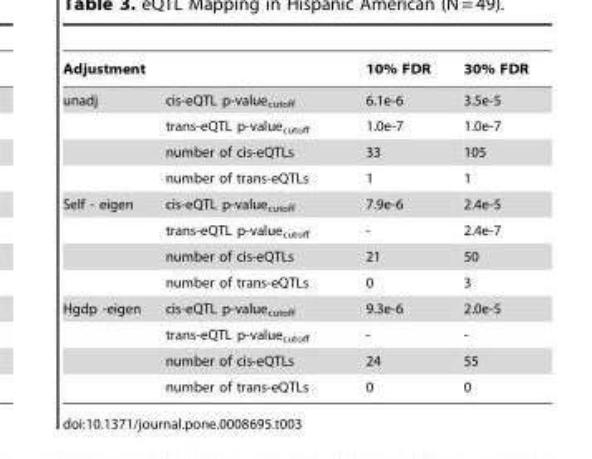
<table><thead><tr><td>Adjustment</td><td></td><td>10% FDR</td><td>30% FDR</td></tr></thead><tbody><tr><td rowspan="4">unadj</td><td>cis-eQTL p-value<sub>cutoff</sub></td><td>6.1e-6</td><td>3.5e-5</td></tr><tr><td>trans-eQTL p-value<sub>cutoff</sub></td><td>1.0e-7</td><td>1.0e-7</td></tr><tr><td>number of cis-eQTLs</td><td>33</td><td>105</td></tr><tr><td>number of trans-eQTLs</td><td>1</td><td>1</td></tr><tr><td rowspan="4">Self - eigen</td><td>cis-eQTL p-value<sub>cutoff</sub></td><td>7.9e-6</td><td>2.4e-5</td></tr><tr><td>trans-eQTL p-value<sub>cutoff</sub></td><td>-</td><td>2.4e-7</td></tr><tr><td>number of cis-eQTLs</td><td>21</td><td>50</td></tr><tr><td>number of trans-eQTLs</td><td>0</td><td>3</td></tr><tr><td rowspan="4">Hgdp -eigen</td><td>cis-eQTL p-value<sub>cutoff</sub></td><td>9.3e-6</td><td>2.0e-5</td></tr><tr><td>trans-eQTL p-value<sub>cutoff</sub></td><td>-</td><td>-</td></tr><tr><td>number of cis-eQTLs</td><td>24</td><td>55</td></tr><tr><td>number of trans-eQTLs</td><td>0</td><td>0</td></tr></tbody></table>